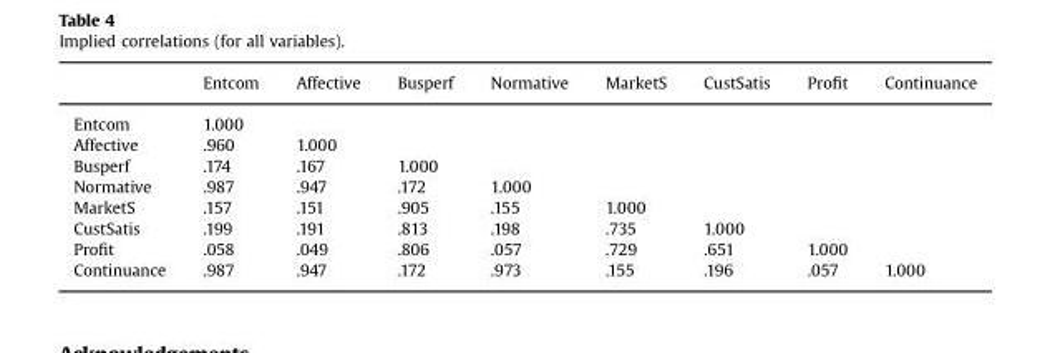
<table><thead><tr><td></td><td>Entcom</td><td>Affective</td><td>Busperf</td><td>Normative</td><td>MarketS</td><td>CustSatis</td><td>Profit</td><td>Continuance</td></tr></thead><tbody><tr><td>Entcom</td><td>1.000</td><td></td><td></td><td></td><td></td><td></td><td></td><td></td></tr><tr><td>Affective</td><td>.960</td><td>1.000</td><td></td><td></td><td></td><td></td><td></td><td></td></tr><tr><td>Busperf</td><td>.174</td><td>.167</td><td>1.000</td><td></td><td></td><td></td><td></td><td></td></tr><tr><td>Normative</td><td>.987</td><td>.947</td><td>.172</td><td>1.000</td><td></td><td></td><td></td><td></td></tr><tr><td>MarketS</td><td>.157</td><td>.151</td><td>.905</td><td>.155</td><td>1.000</td><td></td><td></td><td></td></tr><tr><td>CustSatis</td><td>.199</td><td>.191</td><td>.813</td><td>.198</td><td>.735</td><td>1.000</td><td></td><td></td></tr><tr><td>Profit</td><td>.058</td><td>.049</td><td>.806</td><td>.057</td><td>.729</td><td>.651</td><td>1.000</td><td></td></tr><tr><td>Continuance</td><td>.987</td><td>.947</td><td>.172</td><td>.973</td><td>.155</td><td>.196</td><td>.057</td><td>1.000</td></tr></tbody></table>